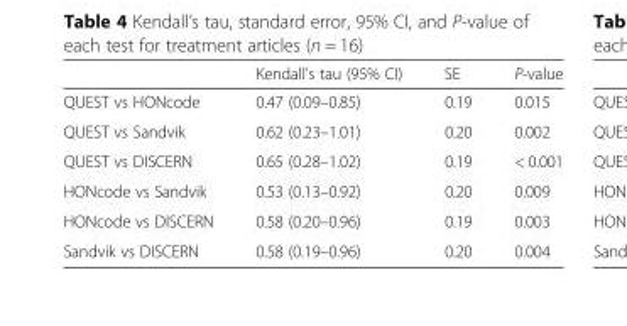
<table><thead><tr><td></td><td>Kendall’s tau (95% CI)</td><td>SE</td><td>P-value</td></tr></thead><tbody><tr><td>QUEST vs HONcode</td><td>0.47 (0.09–0.85)</td><td>0.19</td><td>0.015</td></tr><tr><td>QUEST vs Sandvik</td><td>0.62 (0.23–1.01)</td><td>0.20</td><td>0.002</td></tr><tr><td>QUEST vs DISCERN</td><td>0.65 (0.28–1.02)</td><td>0.19</td><td>&lt; 0.001</td></tr><tr><td>HONcode vs Sandvik</td><td>0.53 (0.13–0.92)</td><td>0.20</td><td>0.009</td></tr><tr><td>HONcode vs DISCERN</td><td>0.58 (0.20–0.96)</td><td>0.19</td><td>0.003</td></tr><tr><td>Sandvik vs DISCERN</td><td>0.58 (0.19–0.96)</td><td>0.20</td><td>0.004</td></tr></tbody></table>